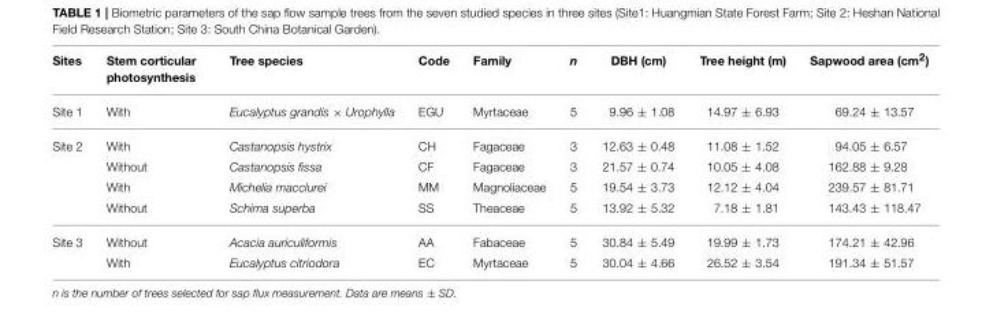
<table><thead><tr><td>Sites</td><td>Stem corticular photosynthesis</td><td>Tree species</td><td>Code</td><td>Family</td><td>n</td><td>DBH (cm)</td><td>Tree height (m)</td><td>Sapwood area (cm<sup>2</sup>)</td></tr></thead><tbody><tr><td>Site 1</td><td>With</td><td>Eucalyptus grandis × Urophylla</td><td>EGU</td><td>Myrtaceae</td><td>5</td><td>9.96 ± 1.08</td><td>14.97 ± 6.93</td><td>69.24 ± 13.57</td></tr><tr><td rowspan="4">Site 2</td><td>With</td><td>Castanopsis hystrix</td><td>CH</td><td>Fagaceae</td><td>3</td><td>12.63 ± 0.48</td><td>11.08 ± 1.52</td><td>94.05 ± 6.57</td></tr><tr><td>Without</td><td>Castanopsis fissa</td><td>CF</td><td>Fagaceae</td><td>3</td><td>21.57 ± 0.74</td><td>10.05 ± 4.08</td><td>162.88 ± 9.28</td></tr><tr><td>With</td><td>Michelia macclurei</td><td>MM</td><td>Magnoliaceae</td><td>5</td><td>19.54 ± 3.73</td><td>12.12 ± 4.04</td><td>239.57 ± 81.71</td></tr><tr><td>Without</td><td>Schima superba</td><td>SS</td><td>Theaceae</td><td>5</td><td>13.92 ± 5.32</td><td>7.18 ± 1.81</td><td>143.43 ± 118.47</td></tr><tr><td rowspan="2">Site 3</td><td>Without</td><td>Acacia auriculiformis</td><td>AA</td><td>Fabaceae</td><td>5</td><td>30.84 ± 5.49</td><td>19.99 ± 1.73</td><td>174.21 ± 42.96</td></tr><tr><td>With</td><td>Eucalyptus citriodora</td><td>EC</td><td>Myrtaceae</td><td>5</td><td>30.04 ± 4.66</td><td>26.52 ± 3.54</td><td>191.34 ± 51.57</td></tr></tbody></table>